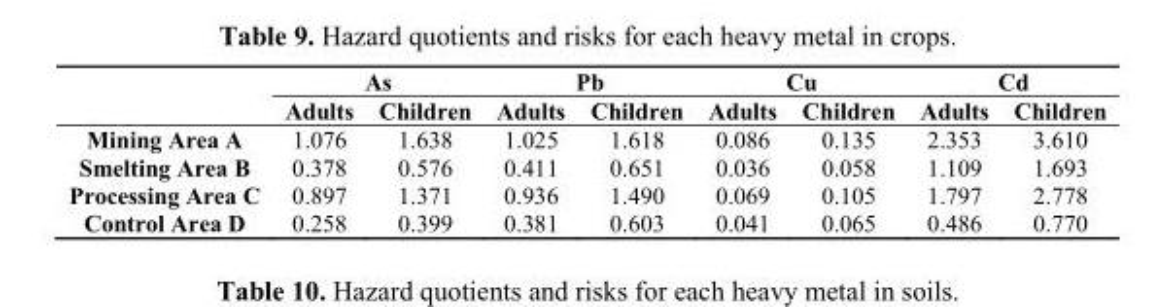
<table><thead><tr><td rowspan="2"></td><td colspan="2">As</td><td colspan="2">Pb</td><td colspan="2">Cu</td><td colspan="2">Cd</td></tr><tr><td>Adults</td><td>Children</td><td>Adults</td><td>Children</td><td>Adults</td><td>Children</td><td>Adults</td><td>Children</td></tr></thead><tbody><tr><td>Mining Area A</td><td>1.076</td><td>1.638</td><td>1.025</td><td>1.618</td><td>0.086</td><td>0.135</td><td>2.353</td><td>3.610</td></tr><tr><td>Smelting Area B</td><td>0.378</td><td>0.576</td><td>0.411</td><td>0.651</td><td>0.036</td><td>0.058</td><td>1.109</td><td>1.693</td></tr><tr><td>Processing Area C</td><td>0.897</td><td>1.371</td><td>0.936</td><td>1.490</td><td>0.069</td><td>0.105</td><td>1.797</td><td>2.778</td></tr><tr><td>Control Area D</td><td>0.258</td><td>0.399</td><td>0.381</td><td>0.603</td><td>0.041</td><td>0.065</td><td>0.486</td><td>0.770</td></tr></tbody></table>